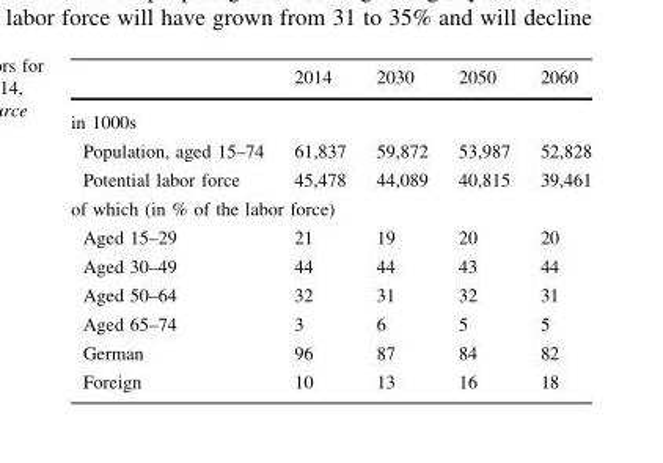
<table><thead><tr><td></td><td>2014</td><td>2030</td><td>2050</td><td>2060</td></tr></thead><tbody><tr><td colspan="5">in 1000s</td></tr><tr><td>Population, aged 15–74</td><td>61,837</td><td>59,872</td><td>53,987</td><td>52,828</td></tr><tr><td>Potential labor force</td><td>45,478</td><td>44,089</td><td>40,815</td><td>39,461</td></tr><tr><td colspan="5">of which (in % of the labor force)</td></tr><tr><td>Aged 15–29</td><td>21</td><td>19</td><td>20</td><td>20</td></tr><tr><td>Aged 30–49</td><td>44</td><td>44</td><td>43</td><td>44</td></tr><tr><td>Aged 50–64</td><td>32</td><td>31</td><td>32</td><td>31</td></tr><tr><td>Aged 65–74</td><td>3</td><td>6</td><td>5</td><td>5</td></tr><tr><td>German</td><td>96</td><td>87</td><td>84</td><td>82</td></tr><tr><td>Foreign</td><td>10</td><td>13</td><td>16</td><td>18</td></tr></tbody></table>